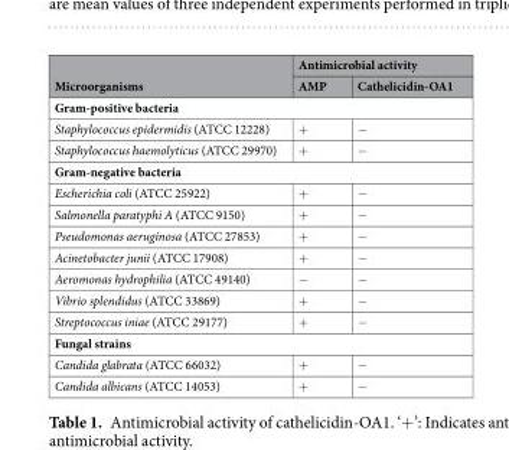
<table><thead><tr><td rowspan="2">Microorganisms</td><td colspan="2">Antimicrobial activity</td></tr><tr><td>AMP</td><td>Cathelicidin-OA1</td></tr></thead><tbody><tr><td colspan="3">Gram-positive bacteria</td></tr><tr><td>Staphylococcus epidermidis (ATCC 12228)</td><td>+</td><td>−</td></tr><tr><td>Staphylococcus haemolyticus (ATCC 29970)</td><td>+</td><td>−</td></tr><tr><td colspan="3">Gram-negative bacteria</td></tr><tr><td>Escherichia coli (ATCC 25922)</td><td>+</td><td>−</td></tr><tr><td>Salmonella paratyphi A (ATCC 9150)</td><td>+</td><td>−</td></tr><tr><td>Pseudomonas aeruginosa (ATCC 27853)</td><td>+</td><td>−</td></tr><tr><td>Acinetobacter junii (ATCC 17908)</td><td>+</td><td>−</td></tr><tr><td>Aeromonas hydrophilia (ATCC 49140)</td><td>−</td><td>−</td></tr><tr><td>Vibrio splendidus (ATCC 33869)</td><td>+</td><td>−</td></tr><tr><td>Streptococcus iniae (ATCC 29177)</td><td>+</td><td>−</td></tr><tr><td colspan="3">Fungal strains</td></tr><tr><td>Candida glabrata (ATCC 66032)</td><td>+</td><td>−</td></tr><tr><td>Candida albicans (ATCC 14053)</td><td>+</td><td>−</td></tr></tbody></table>